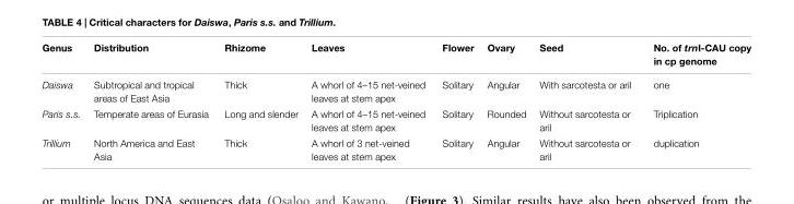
<table><thead><tr><td>Genus</td><td>Distribution</td><td>Rhizome</td><td>Leaves</td><td>Flower</td><td>Ovary</td><td>Seed</td><td>No. of trnI-CAU copy in cp genome</td></tr></thead><tbody><tr><td>Daiswa</td><td>Subtropical and tropical areas of East Asia</td><td>Thick</td><td>A whorl of 4–15 net-veined leaves at stem apex</td><td>Solitary</td><td>Angular</td><td>With sarcotesta or aril</td><td>one</td></tr><tr><td>Paris s.s.</td><td>Temperate areas of Eurasia</td><td>Long and slender</td><td>A whorl of 4–15 net-veined leaves at stem apex</td><td>Solitary</td><td>Rounded</td><td>Without sarcotesta or aril</td><td>Triplication</td></tr><tr><td>Trillium</td><td>North America and East Asia</td><td>Thick</td><td>A whorl of 3 net-veined leaves at stem apex</td><td>Solitary</td><td>Angular</td><td>Without sarcotesta or aril</td><td>duplication</td></tr></tbody></table>